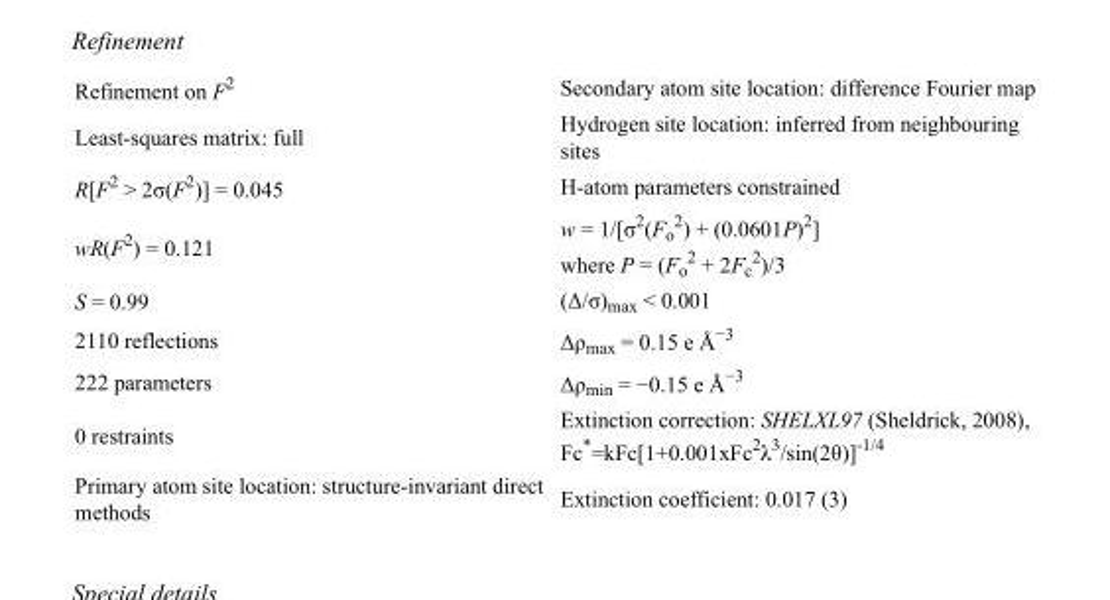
<table><tbody><tr><td>Refinement on F<sup>2</sup></td><td>Secondary atom site location: difference Fourier map</td></tr><tr><td>Least-squares matrix: full</td><td>Hydrogen site location: inferred from neighbouring sites</td></tr><tr><td>R[F<sup>2</sup> &gt; 2σ(F<sup>2</sup>)] = 0.045</td><td>H-atom parameters constrained</td></tr><tr><td>wR(F<sup>2</sup>) = 0.121</td><td>w = 1/[σ<sup>2</sup>(F<sub>o</sub> <sup>2</sup>) + (0.0601P)<sup>2</sup>] where P = (F<sub>o</sub> <sup>2</sup> + 2F<sub>c</sub> <sup>2</sup>)/3</td></tr><tr><td>S = 0.99</td><td>(Δ/σ)<sub>max</sub> &lt; 0.001</td></tr><tr><td>2110 reflections</td><td>Δρ<sub>max</sub> = 0.15 e Å<sup>−3</sup></td></tr><tr><td>222 parameters</td><td>Δρ<sub>min</sub> = −0.15 e Å<sup>−3</sup></td></tr><tr><td>0 restraints</td><td>Extinction correction: SHELXL97 (Sheldrick, 2008), Fc*=kFc[1+0.001xFc<sup>2</sup>λ<sup>3</sup>/sin(2θ)]<sup>-1/4</sup></td></tr><tr><td>Primary atom site location: structure-invariant direct methods</td><td>Extinction coefficient: 0.017 (3)</td></tr></tbody></table>